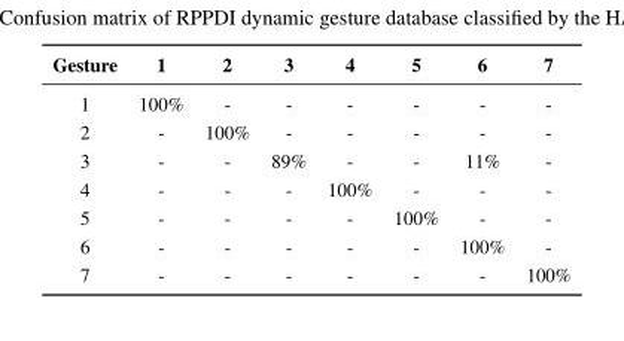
<table><thead><tr><td>Gesture</td><td>1</td><td>2</td><td>3</td><td>4</td><td>5</td><td>6</td><td>7</td></tr></thead><tbody><tr><td>1</td><td>100%</td><td>-</td><td>-</td><td>-</td><td>-</td><td>-</td><td>-</td></tr><tr><td>2</td><td>-</td><td>100%</td><td>-</td><td>-</td><td>-</td><td>-</td><td>-</td></tr><tr><td>3</td><td>-</td><td>-</td><td>89%</td><td>-</td><td>-</td><td>11%</td><td>-</td></tr><tr><td>4</td><td>-</td><td>-</td><td>-</td><td>100%</td><td>-</td><td>-</td><td>-</td></tr><tr><td>5</td><td>-</td><td>-</td><td>-</td><td>-</td><td>100%</td><td>-</td><td>-</td></tr><tr><td>6</td><td>-</td><td>-</td><td>-</td><td>-</td><td>-</td><td>100%</td><td>-</td></tr><tr><td>7</td><td>-</td><td>-</td><td>-</td><td>-</td><td>-</td><td>-</td><td>100%</td></tr></tbody></table>